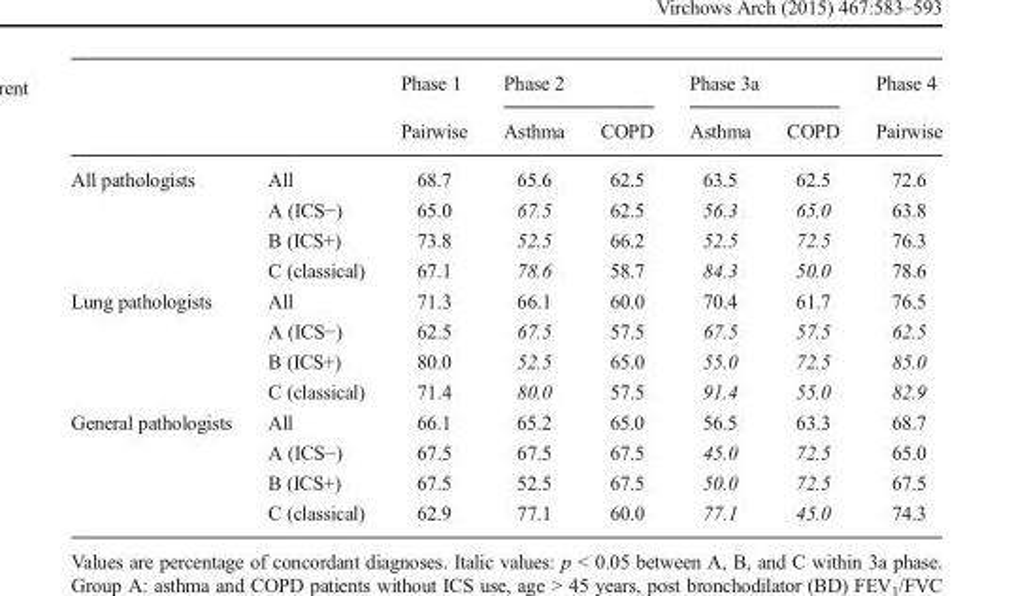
<table><thead><tr><td rowspan="2"></td><td rowspan="2"></td><td rowspan="2">Phase 1 Pairwise</td><td colspan="2">Phase 2</td><td colspan="2">Phase 3a</td><td rowspan="2">Phase 4 Pairwise</td></tr><tr><td>Asthma</td><td>COPD</td><td>Asthma</td><td>COPD</td></tr></thead><tbody><tr><td rowspan="4">All pathologists</td><td>All</td><td>68.7</td><td>65.6</td><td>62.5</td><td>63.5</td><td>62.5</td><td>72.6</td></tr><tr><td>A (ICS−)</td><td>65.0</td><td>67.5</td><td>62.5</td><td>56.3</td><td>65.0</td><td>63.8</td></tr><tr><td>B (ICS+)</td><td>73.8</td><td>52.5</td><td>66.2</td><td>52.5</td><td>72.5</td><td>76.3</td></tr><tr><td>C (classical)</td><td>67.1</td><td>78.6</td><td>58.7</td><td>84.3</td><td>50.0</td><td>78.6</td></tr><tr><td rowspan="4">Lung pathologists</td><td>All</td><td>71.3</td><td>66.1</td><td>60.0</td><td>70.4</td><td>61.7</td><td>76.5</td></tr><tr><td>A (ICS−)</td><td>62.5</td><td>67.5</td><td>57.5</td><td>67.5</td><td>57.5</td><td>62.5</td></tr><tr><td>B (ICS+)</td><td>80.0</td><td>52.5</td><td>65.0</td><td>55.0</td><td>72.5</td><td>85.0</td></tr><tr><td>C (classical)</td><td>71.4</td><td>80.0</td><td>57.5</td><td>91.4</td><td>55.0</td><td>82.9</td></tr><tr><td rowspan="4">General pathologists</td><td>All</td><td>66.1</td><td>65.2</td><td>65.0</td><td>56.5</td><td>63.3</td><td>68.7</td></tr><tr><td>A (ICS−)</td><td>67.5</td><td>67.5</td><td>67.5</td><td>45.0</td><td>72.5</td><td>65.0</td></tr><tr><td>B (ICS+)</td><td>67.5</td><td>52.5</td><td>67.5</td><td>50.0</td><td>72.5</td><td>67.5</td></tr><tr><td>C (classical)</td><td>62.9</td><td>77.1</td><td>60.0</td><td>77.1</td><td>45.0</td><td>74.3</td></tr></tbody></table>